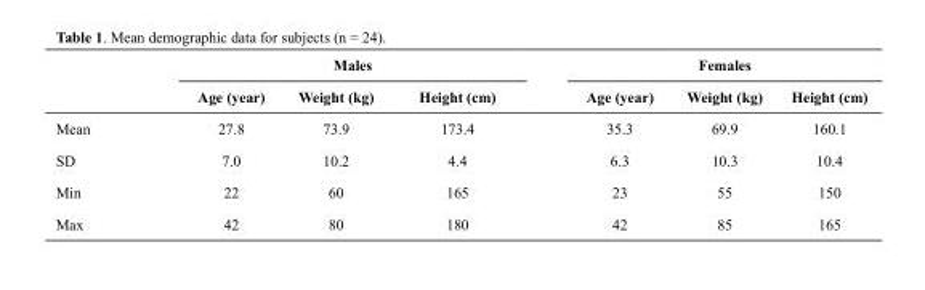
<table><thead><tr><td rowspan="2"></td><td colspan="3">Males</td><td colspan="3">Females</td></tr><tr><td>Age (year)</td><td>Weight (kg)</td><td>Height (cm)</td><td>Age (year)</td><td>Weight (kg)</td><td>Height (cm)</td></tr></thead><tbody><tr><td>Mean</td><td>27.8</td><td>73.9</td><td>173.4</td><td>35.3</td><td>69.9</td><td>160.1</td></tr><tr><td>SD</td><td>7.0</td><td>10.2</td><td>4.4</td><td>6.3</td><td>10.3</td><td>10.4</td></tr><tr><td>Min</td><td>22</td><td>60</td><td>165</td><td>23</td><td>55</td><td>150</td></tr><tr><td>Max</td><td>42</td><td>80</td><td>180</td><td>42</td><td>85</td><td>165</td></tr></tbody></table>